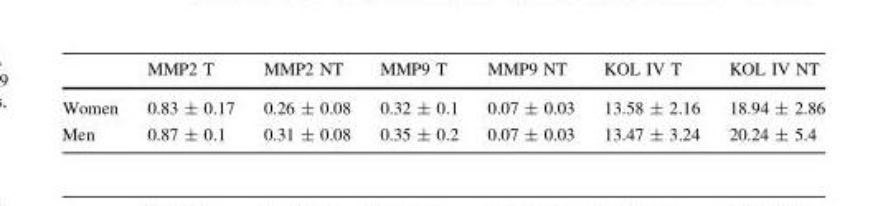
<table><thead><tr><td></td><td>MMP2 T</td><td>MMP2 NT</td><td>MMP9 T</td><td>MMP9 NT</td><td>KOL IV T</td><td>KOL IV NT</td></tr></thead><tbody><tr><td>Women</td><td>0.83 ± 0.17</td><td>0.26 ± 0.08</td><td>0.32 ± 0.1</td><td>0.07 ± 0.03</td><td>13.58 ± 2.16</td><td>18.94 ± 2.86</td></tr><tr><td>Men</td><td>0.87 ± 0.1</td><td>0.31 ± 0.08</td><td>0.35 ± 0.2</td><td>0.07 ± 0.03</td><td>13.47 ± 3.24</td><td>20.24 ± 5.4</td></tr></tbody></table>